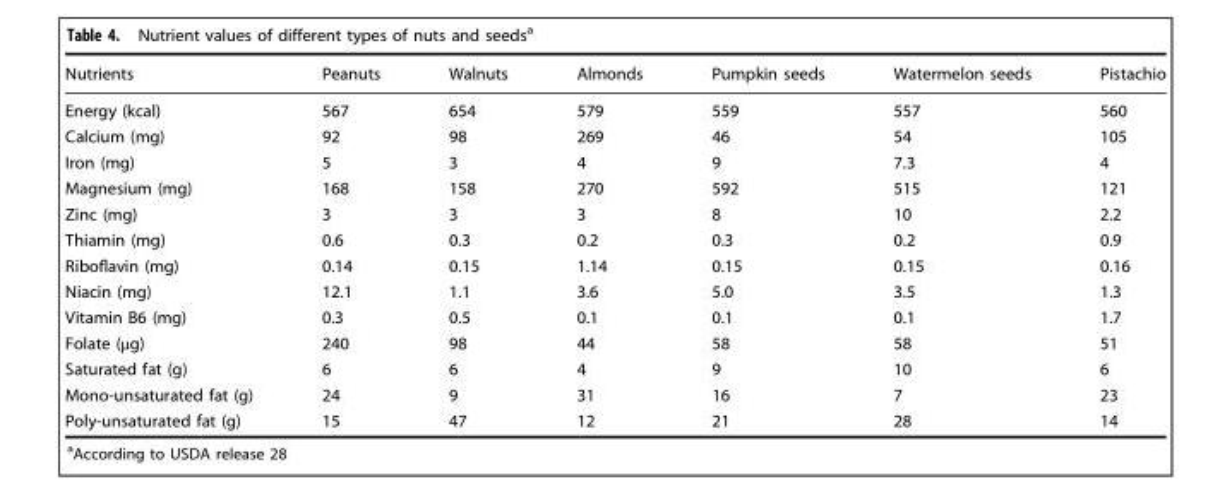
<table><thead><tr><td>Nutrients</td><td>Peanuts</td><td>Walnuts</td><td>Almonds</td><td>Pumpkin seeds</td><td>Watermelon seeds</td><td>Pistachio</td></tr></thead><tbody><tr><td>Energy (kcal)</td><td>567</td><td>654</td><td>579</td><td>559</td><td>557</td><td>560</td></tr><tr><td>Calcium (mg)</td><td>92</td><td>98</td><td>269</td><td>46</td><td>54</td><td>105</td></tr><tr><td>Iron (mg)</td><td>5</td><td>3</td><td>4</td><td>9</td><td>7.3</td><td>4</td></tr><tr><td>Magnesium (mg)</td><td>168</td><td>158</td><td>270</td><td>592</td><td>515</td><td>121</td></tr><tr><td>Zinc (mg)</td><td>3</td><td>3</td><td>3</td><td>8</td><td>10</td><td>2.2</td></tr><tr><td>Thiamin (mg)</td><td>0.6</td><td>0.3</td><td>0.2</td><td>0.3</td><td>0.2</td><td>0.9</td></tr><tr><td>Riboflavin (mg)</td><td>0.14</td><td>0.15</td><td>1.14</td><td>0.15</td><td>0.15</td><td>0.16</td></tr><tr><td>Niacin (mg)</td><td>12.1</td><td>1.1</td><td>3.6</td><td>5.0</td><td>3.5</td><td>1.3</td></tr><tr><td>Vitamin B6 (mg)</td><td>0.3</td><td>0.5</td><td>0.1</td><td>0.1</td><td>0.1</td><td>1.7</td></tr><tr><td>Folate (μg)</td><td>240</td><td>98</td><td>44</td><td>58</td><td>58</td><td>51</td></tr><tr><td>Saturated fat (g)</td><td>6</td><td>6</td><td>4</td><td>9</td><td>10</td><td>6</td></tr><tr><td>Mono-unsaturated fat (g)</td><td>24</td><td>9</td><td>31</td><td>16</td><td>7</td><td>23</td></tr><tr><td>Poly-unsaturated fat (g)</td><td>15</td><td>47</td><td>12</td><td>21</td><td>28</td><td>14</td></tr></tbody></table>